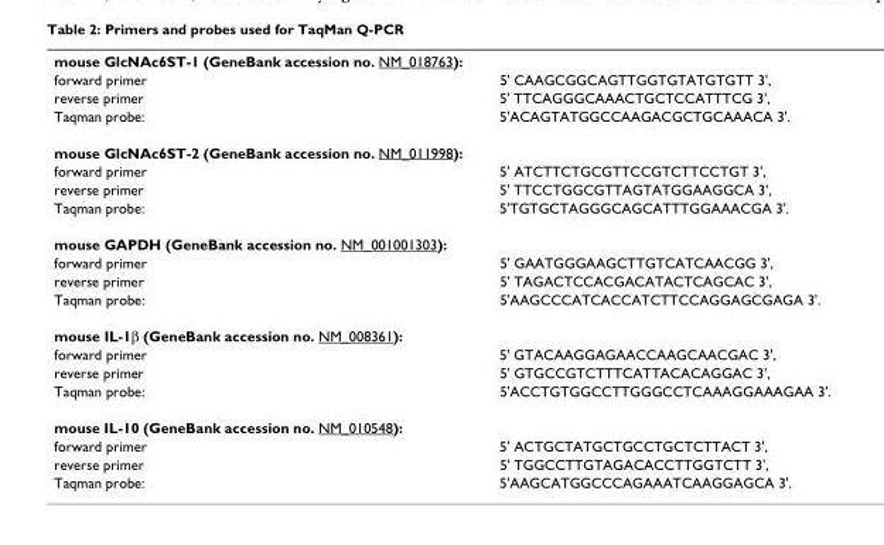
<table><tbody><tr><td colspan="2">mouse GlcNAc6ST-1 (GeneBank accession no. NM_018763):</td></tr><tr><td>forward primer</td><td>5&#x27; CAAGCGGCAGTTGGTGTATGTGTT 3&#x27;,</td></tr><tr><td>reverse primer</td><td>5&#x27; TTCAGGGCAAACTGCTCCATTTCG 3&#x27;,</td></tr><tr><td>Taqman probe:</td><td>5&#x27;ACAGTATGGCCAAGACGCTGCAAACA 3&#x27;.</td></tr><tr><td colspan="2">mouse GlcNAc6ST-2 (GeneBank accession no. NM_011998):</td></tr><tr><td>forward primer</td><td>5&#x27; ATCTTCTGCGTTCCGTCTTCCTGT 3&#x27;,</td></tr><tr><td>reverse primer</td><td>5&#x27; TTCCTGGCGTTAGTATGGAAGGCA 3&#x27;,</td></tr><tr><td>Taqman probe:</td><td>5&#x27;TGTGCTAGGGCAGCATTTGGAAACGA 3&#x27;.</td></tr><tr><td colspan="2">mouse GAPDH (GeneBank accession no. NM_001001303):</td></tr><tr><td>forward primer</td><td>5&#x27; GAATGGGAAGCTTGTCATCAACGG 3&#x27;,</td></tr><tr><td>reverse primer</td><td>5&#x27; TAGACTCCACGACATACTCAGCAC 3&#x27;,</td></tr><tr><td>Taqman probe:</td><td>5&#x27;AAGCCCATCACCATCTTCCAGGAGCGAGA 3&#x27;.</td></tr><tr><td colspan="2">mouse IL-1β (GeneBank accession no. NM_008361):</td></tr><tr><td>forward primer</td><td>5&#x27; GTACAAGGAGAACCAAGCAACGAC 3&#x27;,</td></tr><tr><td>reverse primer</td><td>5&#x27; GTGCCGTCTTTCATTACACAGGAC 3&#x27;,</td></tr><tr><td>Taqman probe:</td><td>5&#x27;ACCTGTGGCCTTGGGCCTCAAAGGAAAGAA 3&#x27;.</td></tr><tr><td colspan="2">mouse IL-10 (GeneBank accession no. NM_010548):</td></tr><tr><td>forward primer</td><td>5&#x27; ACTGCTATGCTGCCTGCTCTTACT 3&#x27;,</td></tr><tr><td>reverse primer</td><td>5&#x27; TGGCCTTGTAGACACCTTGGTCTT 3&#x27;,</td></tr><tr><td>Taqman probe:</td><td>5&#x27;AAGCATGGCCCAGAAATCAAGGAGCA 3&#x27;.</td></tr></tbody></table>